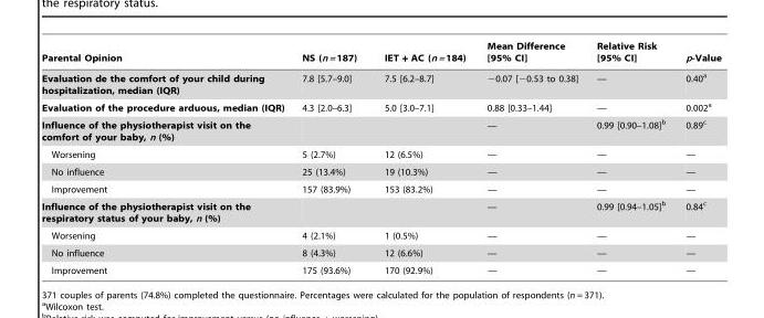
<table><thead><tr><td>Parental Opinion</td><td>NS (n = 187)</td><td>IET + AC (n = 184)</td><td>Mean Difference [95% CI]</td><td>Relative Risk [95% CI]</td><td>p-Value</td></tr></thead><tbody><tr><td>Evaluation de the comfort of your child during hospitalization, median (IQR)</td><td>7.8 [5.7–9.0]</td><td>7.5 [6.2–8.7]</td><td>−0.07 [−0.53 to 0.38]</td><td>—</td><td>0.40<sup>a</sup></td></tr><tr><td>Evaluation of the procedure arduous, median (IQR)</td><td>4.3 [2.0–6.3]</td><td>5.0 [3.0–7.1]</td><td>0.88 [0.33–1.44]</td><td>—</td><td>0.002<sup>a</sup></td></tr><tr><td>Influence of the physiotherapist visit on the comfort of your baby, n (%)</td><td></td><td></td><td>—</td><td>0.99 [0.90–1.08]<sup>b</sup></td><td>0.89<sup>c</sup></td></tr><tr><td>Worsening</td><td>5 (2.7%)</td><td>12 (6.5%)</td><td>—</td><td>—</td><td>—</td></tr><tr><td>No influence</td><td>25 (13.4%)</td><td>19 (10.3%)</td><td>—</td><td>—</td><td>—</td></tr><tr><td>Improvement</td><td>157 (83.9%)</td><td>153 (83.2%)</td><td>—</td><td>—</td><td>—</td></tr><tr><td>Influence of the physiotherapist visit on the respiratory status of your baby, n (%)</td><td></td><td></td><td>—</td><td>0.99 [0.94–1.05]<sup>b</sup></td><td>0.84<sup>c</sup></td></tr><tr><td>Worsening</td><td>4 (2.1%)</td><td>1 (0.5%)</td><td>—</td><td>—</td><td>—</td></tr><tr><td>No influence</td><td>8 (4.3%)</td><td>12 (6.6%)</td><td>—</td><td>—</td><td>—</td></tr><tr><td>Improvement</td><td>175 (93.6%)</td><td>170 (92.9%)</td><td>—</td><td>—</td><td>—</td></tr></tbody></table>